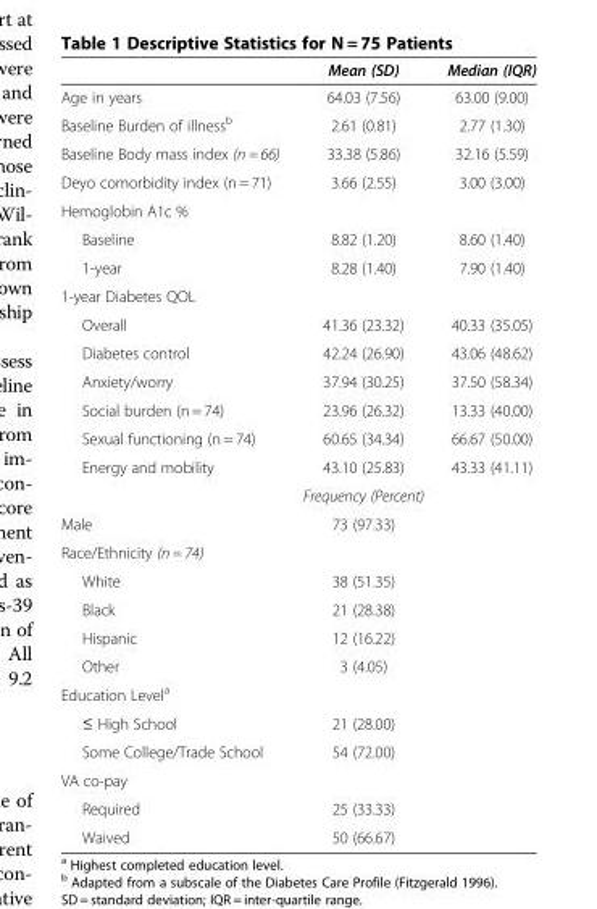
<table><thead><tr><td></td><td>Mean (SD)</td><td>Median (IQR)</td></tr></thead><tbody><tr><td>Age in years</td><td>64.03 (7.56)</td><td>63.00 (9.00)</td></tr><tr><td>Baseline Burden of illness<sup>b</sup></td><td>2.61 (0.81)</td><td>2.77 (1.30)</td></tr><tr><td>Baseline Body mass index (n = 66)</td><td>33.38 (5.86)</td><td>32.16 (5.59)</td></tr><tr><td>Deyo comorbidity index (n = 71)</td><td>3.66 (2.55)</td><td>3.00 (3.00)</td></tr><tr><td colspan="3">Hemoglobin A1c %</td></tr><tr><td>Baseline</td><td>8.82 (1.20)</td><td>8.60 (1.40)</td></tr><tr><td>1-year</td><td>8.28 (1.40)</td><td>7.90 (1.40)</td></tr><tr><td colspan="3">1-year Diabetes QOL</td></tr><tr><td>Overall</td><td>41.36 (23.32)</td><td>40.33 (35.05)</td></tr><tr><td>Diabetes control</td><td>42.24 (26.90)</td><td>43.06 (48.62)</td></tr><tr><td>Anxiety/worry</td><td>37.94 (30.25)</td><td>37.50 (58.34)</td></tr><tr><td>Social burden (n = 74)</td><td>23.96 (26.32)</td><td>13.33 (40.00)</td></tr><tr><td>Sexual functioning (n = 74)</td><td>60.65 (34.34)</td><td>66.67 (50.00)</td></tr><tr><td rowspan="2">Energy and mobility</td><td>43.10 (25.83)</td><td>43.33 (41.11)</td></tr><tr><td>Frequency (Percent)</td><td></td></tr><tr><td>Male</td><td>73 (97.33)</td><td></td></tr><tr><td colspan="3">Race/Ethnicity (n = 74)</td></tr><tr><td>White</td><td>38 (51.35)</td><td></td></tr><tr><td>Black</td><td>21 (28.38)</td><td></td></tr><tr><td>Hispanic</td><td>12 (16.22)</td><td></td></tr><tr><td>Other</td><td>3 (4.05)</td><td></td></tr><tr><td colspan="3">Education Level<sup>a</sup></td></tr><tr><td>≤ High School</td><td>21 (28.00)</td><td></td></tr><tr><td>Some College/Trade School</td><td>54 (72.00)</td><td></td></tr><tr><td colspan="3">VA co-pay</td></tr><tr><td>Required</td><td>25 (33.33)</td><td></td></tr><tr><td>Waived</td><td>50 (66.67)</td><td></td></tr></tbody></table>